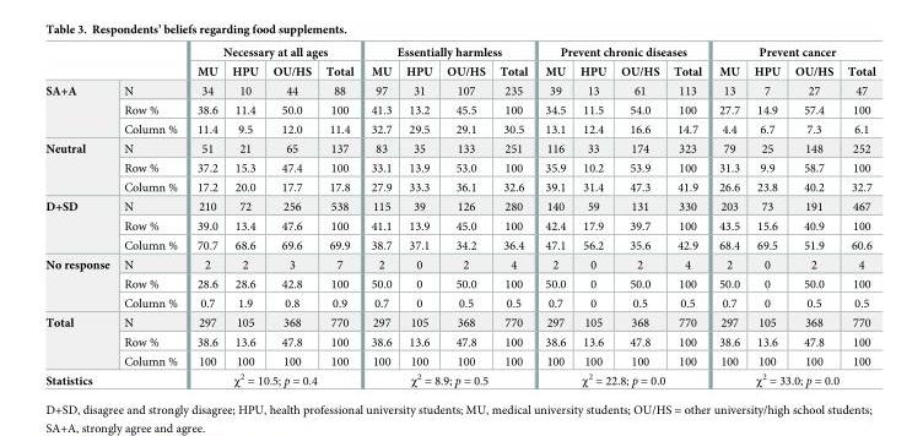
<table><thead><tr><td rowspan="2"></td><td rowspan="2"></td><td colspan="4">Necessary at all ages</td><td colspan="4">Essentially harmless</td><td colspan="4">Prevent chronic diseases</td><td colspan="4">Prevent cancer</td></tr><tr><td>MU</td><td>HPU</td><td>OU/HS</td><td>Total</td><td>MU</td><td>HPU</td><td>OU/HS</td><td>Total</td><td>MU</td><td>HPU</td><td>OU/HS</td><td>Total</td><td>MU</td><td>HPU</td><td>OU/HS</td><td>Total</td></tr></thead><tbody><tr><td rowspan="3">SA+A</td><td>N</td><td>34</td><td>10</td><td>44</td><td>88</td><td>97</td><td>31</td><td>107</td><td>235</td><td>39</td><td>13</td><td>61</td><td>113</td><td>13</td><td>7</td><td>27</td><td>47</td></tr><tr><td>Row %</td><td>38.6</td><td>11.4</td><td>50.0</td><td>100</td><td>41.3</td><td>13.2</td><td>45.5</td><td>100</td><td>34.5</td><td>11.5</td><td>54.0</td><td>100</td><td>27.7</td><td>14.9</td><td>57.4</td><td>100</td></tr><tr><td>Column %</td><td>11.4</td><td>9.5</td><td>12.0</td><td>11.4</td><td>32.7</td><td>29.5</td><td>29.1</td><td>30.5</td><td>13.1</td><td>12.4</td><td>16.6</td><td>14.7</td><td>4.4</td><td>6.7</td><td>7.3</td><td>6.1</td></tr><tr><td rowspan="3">Neutral</td><td>N</td><td>51</td><td>21</td><td>65</td><td>137</td><td>83</td><td>35</td><td>133</td><td>251</td><td>116</td><td>33</td><td>174</td><td>323</td><td>79</td><td>25</td><td>148</td><td>252</td></tr><tr><td>Row %</td><td>37.2</td><td>15.3</td><td>47.4</td><td>100</td><td>33.1</td><td>13.9</td><td>53.0</td><td>100</td><td>35.9</td><td>10.2</td><td>53.9</td><td>100</td><td>31.3</td><td>9.9</td><td>58.7</td><td>100</td></tr><tr><td>Column %</td><td>17.2</td><td>20.0</td><td>17.7</td><td>17.8</td><td>27.9</td><td>33.3</td><td>36.1</td><td>32.6</td><td>39.1</td><td>31.4</td><td>47.3</td><td>41.9</td><td>26.6</td><td>23.8</td><td>40.2</td><td>32.7</td></tr><tr><td rowspan="3">D+SD</td><td>N</td><td>210</td><td>72</td><td>256</td><td>538</td><td>115</td><td>39</td><td>126</td><td>280</td><td>140</td><td>59</td><td>131</td><td>330</td><td>203</td><td>73</td><td>191</td><td>467</td></tr><tr><td>Row %</td><td>39.0</td><td>13.4</td><td>47.6</td><td>100</td><td>41.1</td><td>13.9</td><td>45.0</td><td>100</td><td>42.4</td><td>17.9</td><td>39.7</td><td>100</td><td>43.5</td><td>15.6</td><td>40.9</td><td>100</td></tr><tr><td>Column %</td><td>70.7</td><td>68.6</td><td>69.6</td><td>69.9</td><td>38.7</td><td>37.1</td><td>34.2</td><td>36.4</td><td>47.1</td><td>56.2</td><td>35.6</td><td>42.9</td><td>68.4</td><td>69.5</td><td>51.9</td><td>60.6</td></tr><tr><td rowspan="3">No response</td><td>N</td><td>2</td><td>2</td><td>3</td><td>7</td><td>2</td><td>0</td><td>2</td><td>4</td><td>2</td><td>0</td><td>2</td><td>4</td><td>2</td><td>0</td><td>2</td><td>4</td></tr><tr><td>Row %</td><td>28.6</td><td>28.6</td><td>42.8</td><td>100</td><td>50.0</td><td>0</td><td>50.0</td><td>100</td><td>50.0</td><td>0</td><td>50.0</td><td>100</td><td>50.0</td><td>0</td><td>50.0</td><td>100</td></tr><tr><td>Column %</td><td>0.7</td><td>1.9</td><td>0.8</td><td>0.9</td><td>0.7</td><td>0</td><td>0.5</td><td>0.5</td><td>0.7</td><td>0</td><td>0.5</td><td>0.5</td><td>0.7</td><td>0</td><td>0.5</td><td>0.5</td></tr><tr><td rowspan="3">Total</td><td>N</td><td>297</td><td>105</td><td>368</td><td>770</td><td>297</td><td>105</td><td>368</td><td>770</td><td>297</td><td>105</td><td>368</td><td>770</td><td>297</td><td>105</td><td>368</td><td>770</td></tr><tr><td>Row %</td><td>38.6</td><td>13.6</td><td>47.8</td><td>100</td><td>38.6</td><td>13.6</td><td>47.8</td><td>100</td><td>38.6</td><td>13.6</td><td>47.8</td><td>100</td><td>38.6</td><td>13.6</td><td>47.8</td><td>100</td></tr><tr><td>Column %</td><td>100</td><td>100</td><td>100</td><td>100</td><td>100</td><td>100</td><td>100</td><td>100</td><td>100</td><td>100</td><td>100</td><td>100</td><td>100</td><td>100</td><td>100</td><td>100</td></tr><tr><td colspan="2">Statistics</td><td colspan="4">χ<sup>2</sup> = 10.5; p = 0.4</td><td colspan="4">χ<sup>2</sup> = 8.9; p = 0.5</td><td colspan="4">χ<sup>2</sup> = 22.8; p = 0.0</td><td colspan="4">χ<sup>2</sup> = 33.0; p = 0.0</td></tr></tbody></table>